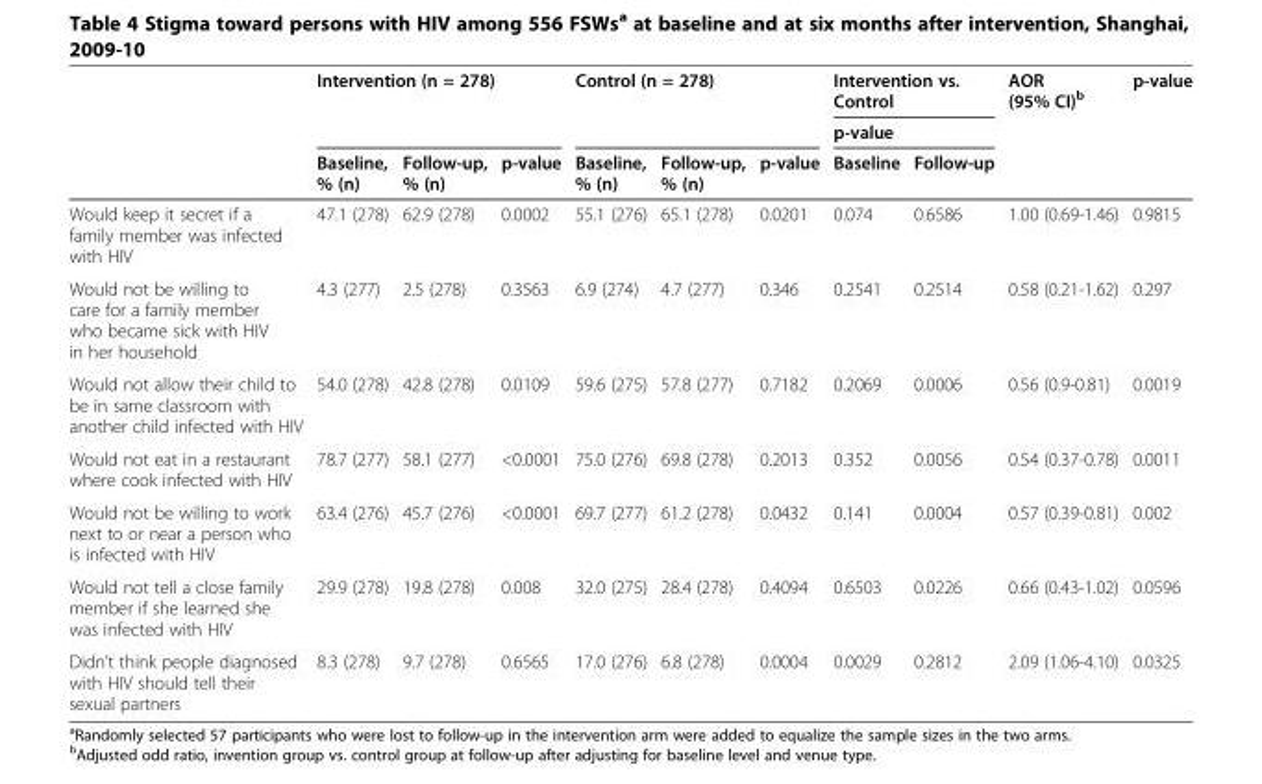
<table><thead><tr><td rowspan="3"></td><td rowspan="2" colspan="3">Intervention (n = 278)</td><td rowspan="2" colspan="3">Control (n = 278)</td><td rowspan="2" colspan="2">Intervention vs. Control p-value</td><td rowspan="3">AOR (95% CI)<sup>b</sup></td><td rowspan="3">p-value</td></tr><tr></tr><tr><td>Baseline, % (n)</td><td>Follow-up, % (n)</td><td>p-value</td><td>Baseline, % (n)</td><td>Follow-up, % (n)</td><td>p-value</td><td>Baseline</td><td>Follow-up</td></tr></thead><tbody><tr><td>Would keep it secret if a family member was infected with HIV</td><td>47.1 (278)</td><td>62.9 (278)</td><td>0.0002</td><td>55.1 (276)</td><td>65.1 (278)</td><td>0.0201</td><td>0.074</td><td>0.6586</td><td>1.00 (0.69-1.46)</td><td>0.9815</td></tr><tr><td>Would not be willing to care for a family member who became sick with HIV in her household</td><td>4.3 (277)</td><td>2.5 (278)</td><td>0.3563</td><td>6.9 (274)</td><td>4.7 (277)</td><td>0.346</td><td>0.2541</td><td>0.2514</td><td>0.58 (0.21-1.62)</td><td>0.297</td></tr><tr><td>Would not allow their child to be in same classroom with another child infected with HIV</td><td>54.0 (278)</td><td>42.8 (278)</td><td>0.0109</td><td>59.6 (275)</td><td>57.8 (277)</td><td>0.7182</td><td>0.2069</td><td>0.0006</td><td>0.56 (0.9-0.81)</td><td>0.0019</td></tr><tr><td>Would not eat in a restaurant where cook infected with HIV</td><td>78.7 (277)</td><td>58.1 (277)</td><td>&lt;0.0001</td><td>75.0 (276)</td><td>69.8 (278)</td><td>0.2013</td><td>0.352</td><td>0.0056</td><td>0.54 (0.37-0.78)</td><td>0.0011</td></tr><tr><td>Would not be willing to work next to or near a person who is infected with HIV</td><td>63.4 (276)</td><td>45.7 (276)</td><td>&lt;0.0001</td><td>69.7 (277)</td><td>61.2 (278)</td><td>0.0432</td><td>0.141</td><td>0.0004</td><td>0.57 (0.39-0.81)</td><td>0.002</td></tr><tr><td>Would not tell a close family member if she learned she was infected with HIV</td><td>29.9 (278)</td><td>19.8 (278)</td><td>0.008</td><td>32.0 (275)</td><td>28.4 (278)</td><td>0.4094</td><td>0.6503</td><td>0.0226</td><td>0.66 (0.43-1.02)</td><td>0.0596</td></tr><tr><td>Didn’t think people diagnosed with HIV should tell their sexual partners</td><td>8.3 (278)</td><td>9.7 (278)</td><td>0.6565</td><td>17.0 (276)</td><td>6.8 (278)</td><td>0.0004</td><td>0.0029</td><td>0.2812</td><td>2.09 (1.06-4.10)</td><td>0.0325</td></tr></tbody></table>